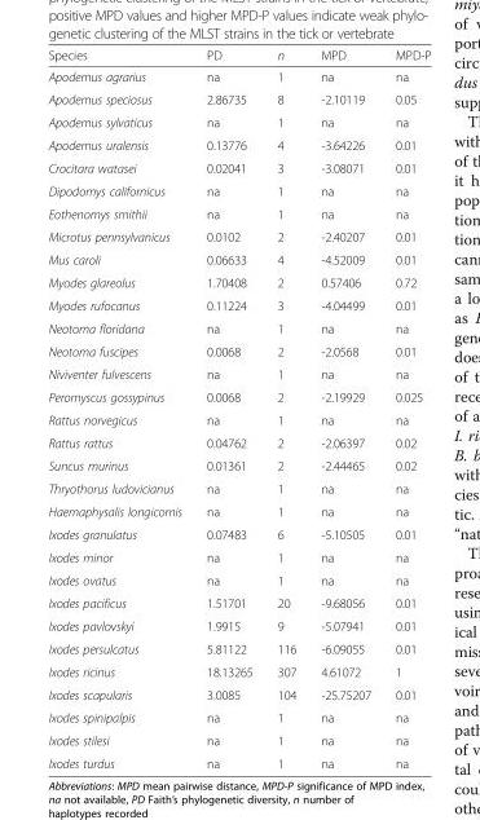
<table><thead><tr><td>Species</td><td>PD</td><td>n</td><td>MPD</td><td>MPD-P</td></tr></thead><tbody><tr><td>Apodemus agrarius</td><td>na</td><td>1</td><td>na</td><td>na</td></tr><tr><td>Apodemus speciosus</td><td>2.86735</td><td>8</td><td>-2.10119</td><td>0.05</td></tr><tr><td>Apodemus sylvaticus</td><td>na</td><td>1</td><td>na</td><td>na</td></tr><tr><td>Apodemus uralensis</td><td>0.13776</td><td>4</td><td>-3.64226</td><td>0.01</td></tr><tr><td>Crocitara watasei</td><td>0.02041</td><td>3</td><td>-3.08071</td><td>0.01</td></tr><tr><td>Dipodomys californicus</td><td>na</td><td>1</td><td>na</td><td>na</td></tr><tr><td>Eothenomys smithii</td><td>na</td><td>1</td><td>na</td><td>na</td></tr><tr><td>Microtus pennsylvanicus</td><td>0.0102</td><td>2</td><td>-2.40207</td><td>0.01</td></tr><tr><td>Mus caroli</td><td>0.06633</td><td>4</td><td>-4.52009</td><td>0.01</td></tr><tr><td>Myodes glareolus</td><td>1.70408</td><td>2</td><td>0.57406</td><td>0.72</td></tr><tr><td>Myodes rufocanus</td><td>0.11224</td><td>3</td><td>-4.04499</td><td>0.01</td></tr><tr><td>Neotoma floridana</td><td>na</td><td>1</td><td>na</td><td>na</td></tr><tr><td>Neotoma fuscipes</td><td>0.0068</td><td>2</td><td>-2.0568</td><td>0.01</td></tr><tr><td>Niviventer fulvescens</td><td>na</td><td>1</td><td>na</td><td>na</td></tr><tr><td>Peromyscus gossypinus</td><td>0.0068</td><td>2</td><td>-2.19929</td><td>0.025</td></tr><tr><td>Rattus norvegicus</td><td>na</td><td>1</td><td>na</td><td>na</td></tr><tr><td>Rattus rattus</td><td>0.04762</td><td>2</td><td>-2.06397</td><td>0.02</td></tr><tr><td>Suncus murinus</td><td>0.01361</td><td>2</td><td>-2.44465</td><td>0.02</td></tr><tr><td>Thryothorus ludovicianus</td><td>na</td><td>1</td><td>na</td><td>na</td></tr><tr><td>Haemaphysalis longicornis</td><td>na</td><td>1</td><td>na</td><td>na</td></tr><tr><td>Ixodes granulatus</td><td>0.07483</td><td>6</td><td>-5.10505</td><td>0.01</td></tr><tr><td>Ixodes minor</td><td>na</td><td>1</td><td>na</td><td>na</td></tr><tr><td>Ixodes ovatus</td><td>na</td><td>1</td><td>na</td><td>na</td></tr><tr><td>Ixodes pacificus</td><td>1.51701</td><td>20</td><td>-9.68056</td><td>0.01</td></tr><tr><td>Ixodes pavlovskyi</td><td>1.9915</td><td>9</td><td>-5.07941</td><td>0.01</td></tr><tr><td>Ixodes persulcatus</td><td>5.81122</td><td>116</td><td>-6.09055</td><td>0.01</td></tr><tr><td>Ixodes ricinus</td><td>18.13265</td><td>307</td><td>4.61072</td><td>1</td></tr><tr><td>Ixodes scapularis</td><td>3.0085</td><td>104</td><td>-25.75207</td><td>0.01</td></tr><tr><td>Ixodes spinipalpis</td><td>na</td><td>1</td><td>na</td><td>na</td></tr><tr><td>Ixodes stilesi</td><td>na</td><td>1</td><td>na</td><td>na</td></tr><tr><td>Ixodes turdus</td><td>na</td><td>1</td><td>na</td><td>na</td></tr></tbody></table>